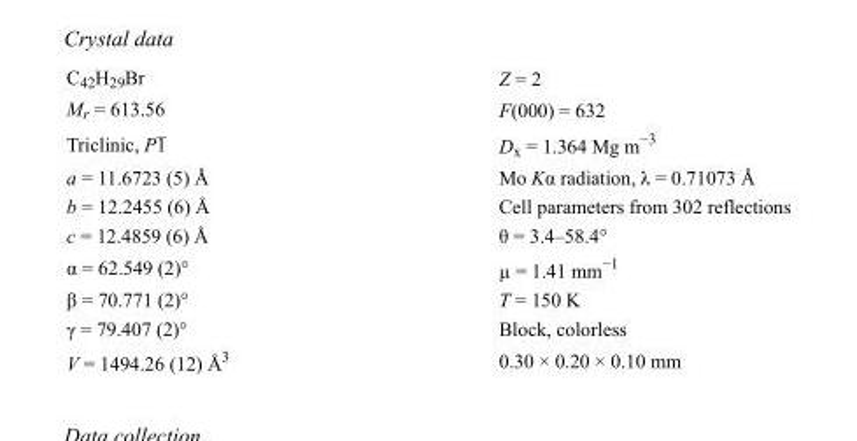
<table><tbody><tr><td>C<sub>42</sub>H<sub>29</sub>Br</td><td>Z = 2</td></tr><tr><td>M<sub>r</sub> = 613.56</td><td>F(000) = 632</td></tr><tr><td>Triclinic, P1</td><td>D<sub>x</sub> = 1.364 Mg m<sup>−3</sup></td></tr><tr><td>a = 11.6723 (5) Å</td><td>Mo Kα radiation, λ = 0.71073 Å</td></tr><tr><td>b = 12.2455 (6) Å</td><td>Cell parameters from 302 reflections</td></tr><tr><td>c = 12.4859 (6) Å</td><td>θ = 3.4–58.4°</td></tr><tr><td>α = 62.549 (2)°</td><td>µ = 1.41 mm<sup>−1</sup></td></tr><tr><td>β = 70.771 (2)°</td><td>T = 150 K</td></tr><tr><td>γ = 79.407 (2)°</td><td>Block, colorless</td></tr><tr><td>V = 1494.26 (12) Å<sup>3</sup></td><td>0.30 × 0.20 × 0.10 mm</td></tr></tbody></table>